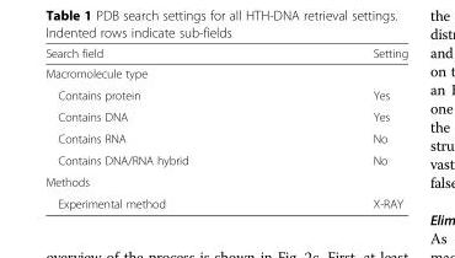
<table><thead><tr><td>Search field</td><td>Setting</td></tr></thead><tbody><tr><td colspan="2">Macromolecule type</td></tr><tr><td>Contains protein</td><td>Yes</td></tr><tr><td>Contains DNA</td><td>Yes</td></tr><tr><td>Contains RNA</td><td>No</td></tr><tr><td>Contains DNA/RNA hybrid</td><td>No</td></tr><tr><td colspan="2">Methods</td></tr><tr><td>Experimental method</td><td>X-RAY</td></tr></tbody></table>